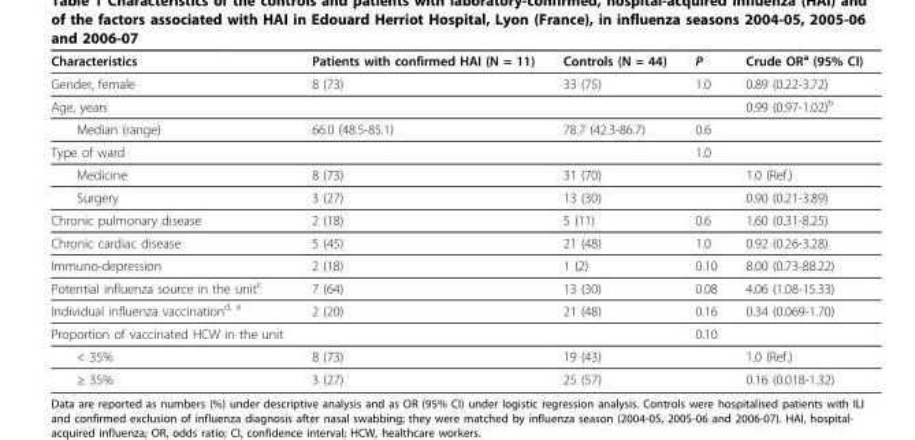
<table><thead><tr><td>Characteristics</td><td>Patients with confirmed HAI (N = 11)</td><td>Controls (N = 44)</td><td>P</td><td>Crude OR<sup>a</sup> (95% CI)</td></tr></thead><tbody><tr><td>Gender, female</td><td>8 (73)</td><td>33 (75)</td><td>1.0</td><td>0.89 (0.22-3.72)</td></tr><tr><td>Age, years</td><td></td><td></td><td></td><td>0.99 (0.97-1.02)<sup>b</sup></td></tr><tr><td>Median (range)</td><td>66.0 (48.5-85.1)</td><td>78.7 (42.3-86.7)</td><td>0.6</td><td></td></tr><tr><td>Type of ward</td><td></td><td></td><td>1.0</td><td></td></tr><tr><td>Medicine</td><td>8 (73)</td><td>31 (70)</td><td></td><td>1.0 (Ref.)</td></tr><tr><td>Surgery</td><td>3 (27)</td><td>13 (30)</td><td></td><td>0.90 (0.21-3.89)</td></tr><tr><td>Chronic pulmonary disease</td><td>2 (18)</td><td>5 (11)</td><td>0.6</td><td>1.60 (0.31-8.25)</td></tr><tr><td>Chronic cardiac disease</td><td>5 (45)</td><td>21 (48)</td><td>1.0</td><td>0.92 (0.26-3.28)</td></tr><tr><td>Immuno-depression</td><td>2 (18)</td><td>1 (2)</td><td>0.10</td><td>8.00 (0.73-88.22)</td></tr><tr><td>Potential influenza source in the unit<sup>c</sup></td><td>7 (64)</td><td>13 (30)</td><td>0.08</td><td>4.06 (1.08-15.33)</td></tr><tr><td>Individual influenza vaccination<sup>d, e</sup></td><td>2 (20)</td><td>21 (48)</td><td>0.16</td><td>0.34 (0.069-1.70)</td></tr><tr><td>Proportion of vaccinated HCW in the unit</td><td></td><td></td><td>0.10</td><td></td></tr><tr><td>&lt; 35%</td><td>8 (73)</td><td>19 (43)</td><td></td><td>1.0 (Ref.)</td></tr><tr><td>≥ 35%</td><td>3 (27)</td><td>25 (57)</td><td></td><td>0.16 (0.018-1.32)</td></tr></tbody></table>